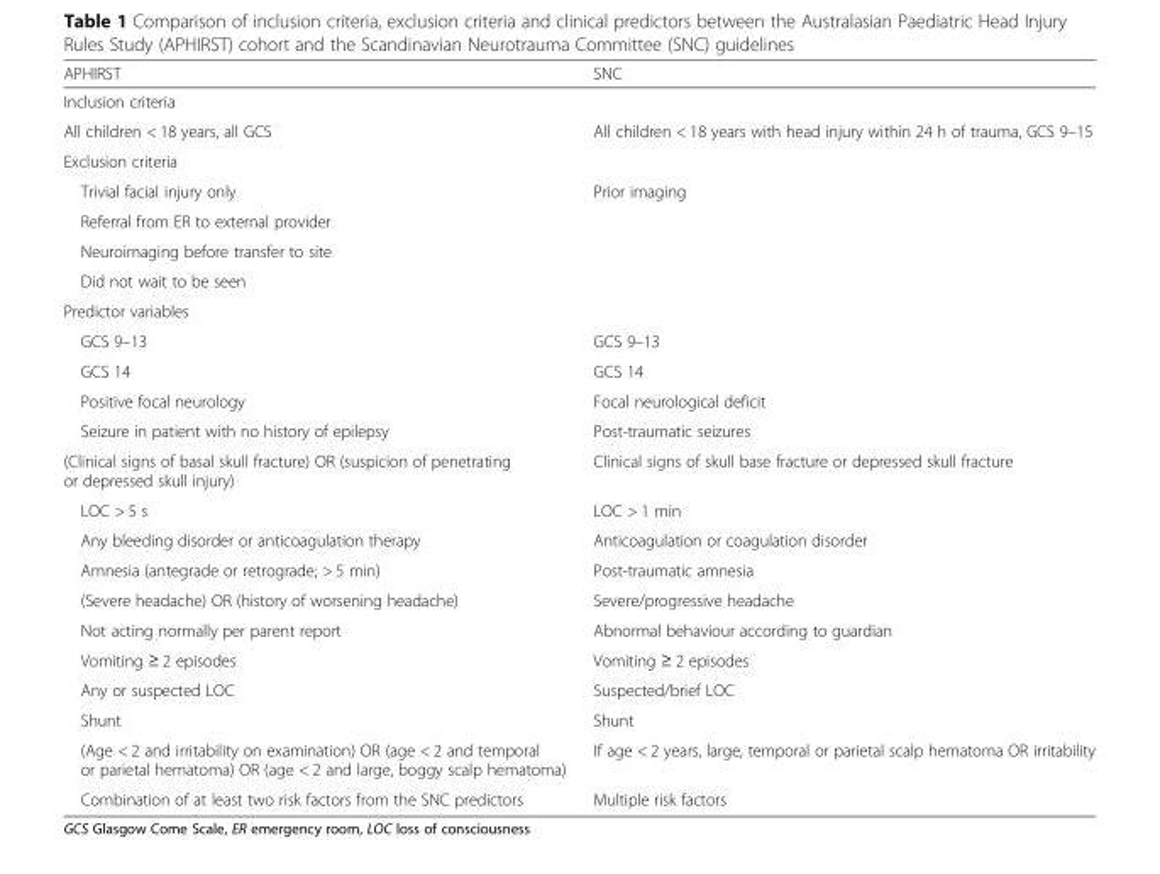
<table><thead><tr><td>APHIRST</td><td>SNC</td></tr></thead><tbody><tr><td colspan="2">Inclusion criteria</td></tr><tr><td>All children &lt; 18 years, all GCS</td><td>All children &lt; 18 years with head injury within 24 h of trauma, GCS 9–15</td></tr><tr><td colspan="2">Exclusion criteria</td></tr><tr><td>Trivial facial injury only</td><td>Prior imaging</td></tr><tr><td colspan="2">Referral from ER to external provider</td></tr><tr><td colspan="2">Neuroimaging before transfer to site</td></tr><tr><td colspan="2">Did not wait to be seen</td></tr><tr><td colspan="2">Predictor variables</td></tr><tr><td>GCS 9–13</td><td>GCS 9–13</td></tr><tr><td>GCS 14</td><td>GCS 14</td></tr><tr><td>Positive focal neurology</td><td>Focal neurological deficit</td></tr><tr><td>Seizure in patient with no history of epilepsy</td><td>Post-traumatic seizures</td></tr><tr><td>(Clinical signs of basal skull fracture) OR (suspicion of penetrating or depressed skull injury)</td><td>Clinical signs of skull base fracture or depressed skull fracture</td></tr><tr><td>LOC &gt; 5 s</td><td>LOC &gt; 1 min</td></tr><tr><td>Any bleeding disorder or anticoagulation therapy</td><td>Anticoagulation or coagulation disorder</td></tr><tr><td>Amnesia (antegrade or retrograde; &gt; 5 min)</td><td>Post-traumatic amnesia</td></tr><tr><td>(Severe headache) OR (history of worsening headache)</td><td>Severe/progressive headache</td></tr><tr><td>Not acting normally per parent report</td><td>Abnormal behaviour according to guardian</td></tr><tr><td>Vomiting ≥ 2 episodes</td><td>Vomiting ≥ 2 episodes</td></tr><tr><td>Any or suspected LOC</td><td>Suspected/brief LOC</td></tr><tr><td>Shunt</td><td>Shunt</td></tr><tr><td>(Age &lt; 2 and irritability on examination) OR (age &lt; 2 and temporal or parietal hematoma) OR (age &lt; 2 and large, boggy scalp hematoma)</td><td>If age &lt; 2 years, large, temporal or parietal scalp hematoma OR irritability</td></tr><tr><td>Combination of at least two risk factors from the SNC predictors</td><td>Multiple risk factors</td></tr></tbody></table>